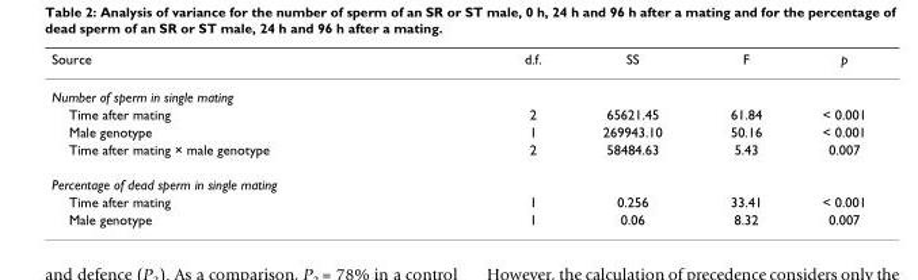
<table><thead><tr><td>Source</td><td>d.f.</td><td>SS</td><td>F</td><td>p</td></tr></thead><tbody><tr><td colspan="5">Number of sperm in single mating</td></tr><tr><td>Time after mating</td><td>2</td><td>65621.45</td><td>61.84</td><td>&lt; 0.001</td></tr><tr><td>Male genotype</td><td>1</td><td>269943.10</td><td>50.16</td><td>&lt; 0.001</td></tr><tr><td>Time after mating × male genotype</td><td>2</td><td>58484.63</td><td>5.43</td><td>0.007</td></tr><tr><td colspan="5">Percentage of dead sperm in single mating</td></tr><tr><td>Time after mating</td><td>1</td><td>0.256</td><td>33.41</td><td>&lt; 0.001</td></tr><tr><td>Male genotype</td><td>1</td><td>0.06</td><td>8.32</td><td>0.007</td></tr></tbody></table>